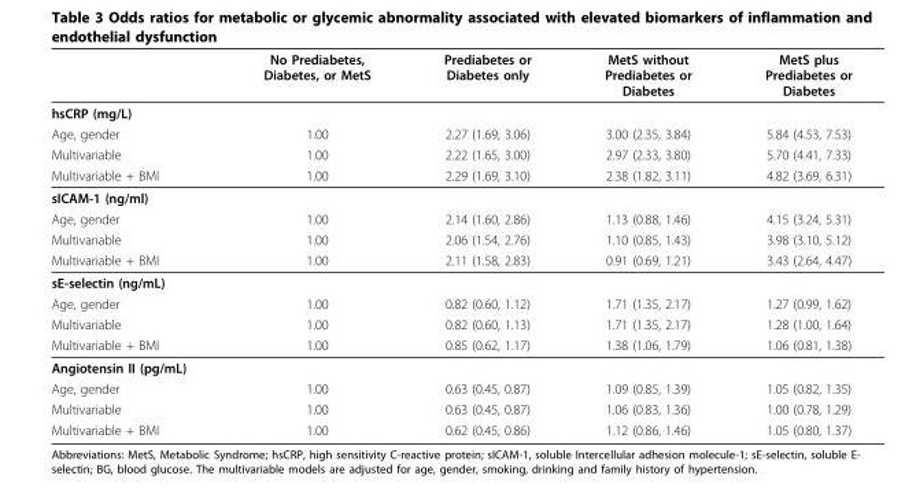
<table><thead><tr><td></td><td>No Prediabetes, Diabetes, or MetS</td><td>Prediabetes or Diabetes only</td><td>MetS without Prediabetes or Diabetes</td><td>MetS plus Prediabetes or Diabetes</td></tr></thead><tbody><tr><td colspan="5">hsCRP (mg/L)</td></tr><tr><td>Age, gender</td><td>1.00</td><td>2.27 (1.69, 3.06)</td><td>3.00 (2.35, 3.84)</td><td>5.84 (4.53, 7.53)</td></tr><tr><td>Multivariable</td><td>1.00</td><td>2.22 (1.65, 3.00)</td><td>2.97 (2.33, 3.80)</td><td>5.70 (4.41, 7.33)</td></tr><tr><td>Multivariable + BMI</td><td>1.00</td><td>2.29 (1.69, 3.10)</td><td>2.38 (1.82, 3.11)</td><td>4.82 (3.69, 6.31)</td></tr><tr><td colspan="5">sICAM-1 (ng/ml)</td></tr><tr><td>Age, gender</td><td>1.00</td><td>2.14 (1.60, 2.86)</td><td>1.13 (0.88, 1.46)</td><td>4.15 (3.24, 5.31)</td></tr><tr><td>Multivariable</td><td>1.00</td><td>2.06 (1.54, 2.76)</td><td>1.10 (0.85, 1.43)</td><td>3.98 (3.10, 5.12)</td></tr><tr><td>Multivariable + BMI</td><td>1.00</td><td>2.11 (1.58, 2.83)</td><td>0.91 (0.69, 1.21)</td><td>3.43 (2.64, 4.47)</td></tr><tr><td colspan="5">sE-selectin (ng/mL)</td></tr><tr><td>Age, gender</td><td>1.00</td><td>0.82 (0.60, 1.12)</td><td>1.71 (1.35, 2.17)</td><td>1.27 (0.99, 1.62)</td></tr><tr><td>Multivariable</td><td>1.00</td><td>0.82 (0.60, 1.13)</td><td>1.71 (1.35, 2.17)</td><td>1.28 (1.00, 1.64)</td></tr><tr><td>Multivariable + BMI</td><td>1.00</td><td>0.85 (0.62, 1.17)</td><td>1.38 (1.06, 1.79)</td><td>1.06 (0.81, 1.38)</td></tr><tr><td colspan="5">Angiotensin II (pg/mL)</td></tr><tr><td>Age, gender</td><td>1.00</td><td>0.63 (0.45, 0.87)</td><td>1.09 (0.85, 1.39)</td><td>1.05 (0.82, 1.35)</td></tr><tr><td>Multivariable</td><td>1.00</td><td>0.63 (0.45, 0.87)</td><td>1.06 (0.83, 1.36)</td><td>1.00 (0.78, 1.29)</td></tr><tr><td>Multivariable + BMI</td><td>1.00</td><td>0.62 (0.45, 0.86)</td><td>1.12 (0.86, 1.46)</td><td>1.05 (0.80, 1.37)</td></tr></tbody></table>